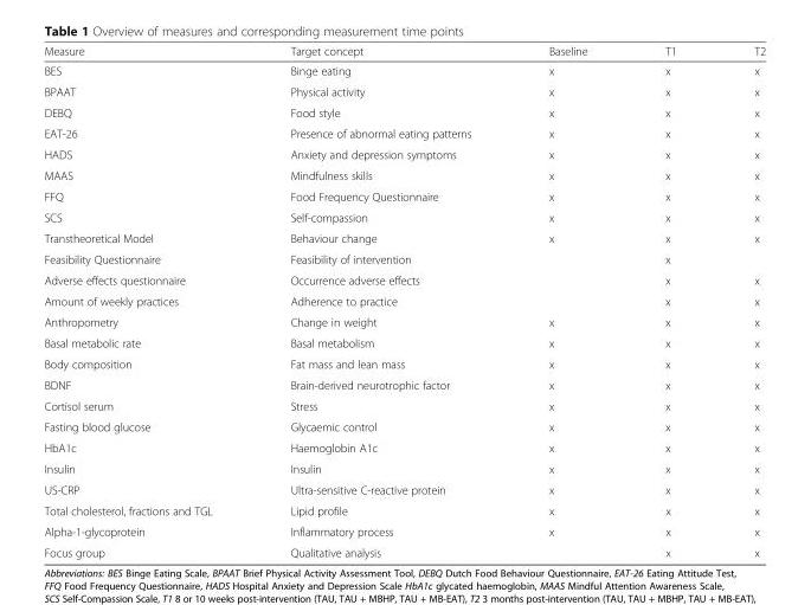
<table><thead><tr><td>Measure</td><td>Target concept</td><td>Baseline</td><td>T1</td><td>T2</td></tr></thead><tbody><tr><td>BES</td><td>Binge eating</td><td>x</td><td>x</td><td>x</td></tr><tr><td>BPAAT</td><td>Physical activity</td><td>x</td><td>x</td><td>x</td></tr><tr><td>DEBQ</td><td>Food style</td><td>x</td><td>x</td><td>x</td></tr><tr><td>EAT-26</td><td>Presence of abnormal eating patterns</td><td>x</td><td>x</td><td>x</td></tr><tr><td>HADS</td><td>Anxiety and depression symptoms</td><td>x</td><td>x</td><td>x</td></tr><tr><td>MAAS</td><td>Mindfulness skills</td><td>x</td><td>x</td><td>x</td></tr><tr><td>FFQ</td><td>Food Frequency Questionnaire</td><td>x</td><td>x</td><td>x</td></tr><tr><td>SCS</td><td>Self-compassion</td><td>x</td><td>x</td><td>x</td></tr><tr><td>Transtheoretical Model</td><td>Behaviour change</td><td>x</td><td>x</td><td>x</td></tr><tr><td>Feasibility Questionnaire</td><td>Feasibility of intervention</td><td></td><td>x</td><td></td></tr><tr><td>Adverse effects questionnaire</td><td>Occurrence adverse effects</td><td></td><td>x</td><td>x</td></tr><tr><td>Amount of weekly practices</td><td>Adherence to practice</td><td></td><td>x</td><td>x</td></tr><tr><td>Anthropometry</td><td>Change in weight</td><td>x</td><td>x</td><td>x</td></tr><tr><td>Basal metabolic rate</td><td>Basal metabolism</td><td>x</td><td>x</td><td>x</td></tr><tr><td>Body composition</td><td>Fat mass and lean mass</td><td>x</td><td>x</td><td>x</td></tr><tr><td>BDNF</td><td>Brain-derived neurotrophic factor</td><td>x</td><td>x</td><td>x</td></tr><tr><td>Cortisol serum</td><td>Stress</td><td>x</td><td>x</td><td>x</td></tr><tr><td>Fasting blood glucose</td><td>Glycaemic control</td><td>x</td><td>x</td><td>x</td></tr><tr><td>HbA1c</td><td>Haemoglobin A1c</td><td>x</td><td>x</td><td>x</td></tr><tr><td>Insulin</td><td>Insulin</td><td>x</td><td>x</td><td>x</td></tr><tr><td>US-CRP</td><td>Ultra-sensitive C-reactive protein</td><td>x</td><td>x</td><td>x</td></tr><tr><td>Total cholesterol, fractions and TGL</td><td>Lipid profile</td><td>x</td><td>x</td><td>x</td></tr><tr><td>Alpha-1-glycoprotein</td><td>Inflammatory process</td><td>x</td><td>x</td><td>x</td></tr><tr><td>Focus group</td><td>Qualitative analysis</td><td></td><td>x</td><td>x</td></tr></tbody></table>